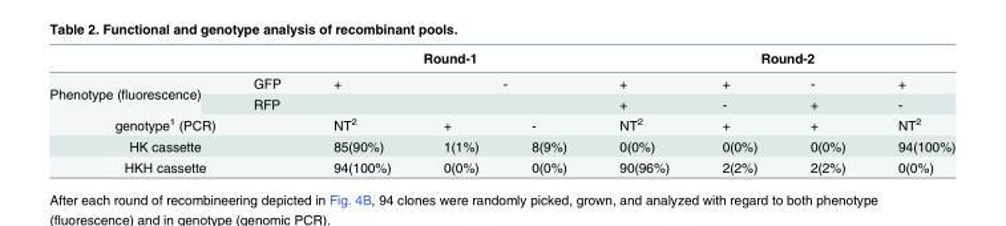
<table><thead><tr><td rowspan="3">Phenotype (fluorescence)</td><td rowspan="3">GFP RFP</td><td colspan="3">Round-1</td><td colspan="4">Round-2</td></tr><tr><td rowspan="3">+ NT<sup>2</sup></td><td rowspan="2" colspan="2">-</td><td rowspan="3">+ + NT<sup>2</sup></td><td rowspan="3">+ - +</td><td rowspan="3">- + +</td><td rowspan="3">+ - NT2</td></tr><tr></tr><tr><td colspan="2">genotype<sup>1</sup> (PCR)</td><td>+</td><td>-</td></tr></thead><tbody><tr><td colspan="2">HK cassette</td><td>85(90%)</td><td>1(1%)</td><td>8(9%)</td><td>0(0%)</td><td>0(0%)</td><td>0(0%)</td><td>94(100%)</td></tr><tr><td colspan="2">HKH cassette</td><td>94(100%)</td><td>0(0%)</td><td>0(0%)</td><td>90(96%)</td><td>2(2%)</td><td>2(2%)</td><td>0(0%)</td></tr></tbody></table>